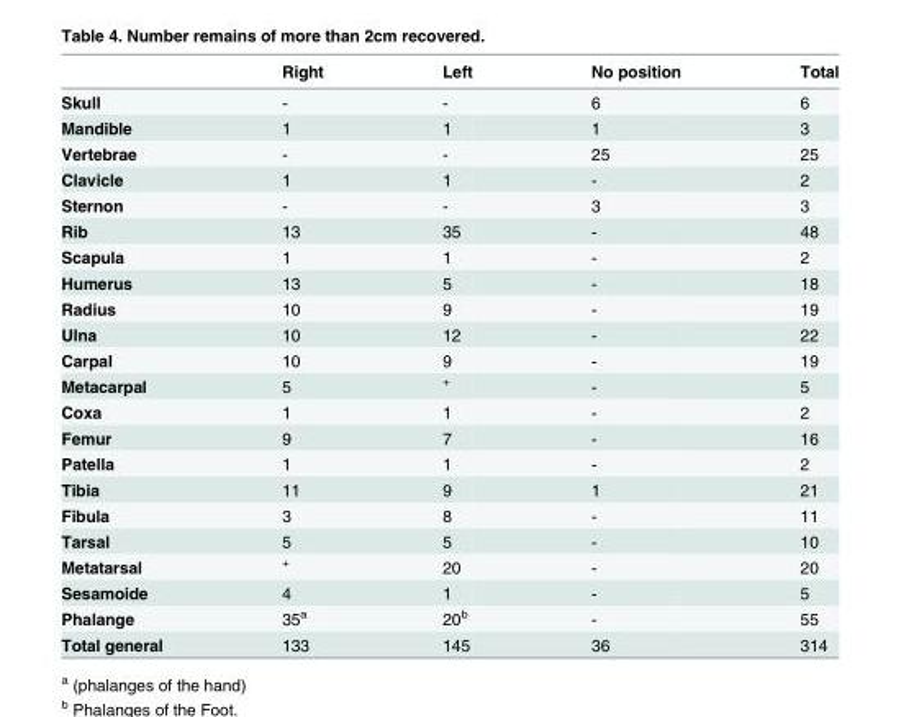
<table><thead><tr><td></td><td>Right</td><td>Left</td><td>No position</td><td>Total</td></tr></thead><tbody><tr><td>Skull</td><td>-</td><td>-</td><td>6</td><td>6</td></tr><tr><td>Mandible</td><td>1</td><td>1</td><td>1</td><td>3</td></tr><tr><td>Vertebrae</td><td>-</td><td>-</td><td>25</td><td>25</td></tr><tr><td>Clavicle</td><td>1</td><td>1</td><td>-</td><td>2</td></tr><tr><td>Sternon</td><td>-</td><td>-</td><td>3</td><td>3</td></tr><tr><td>Rib</td><td>13</td><td>35</td><td>-</td><td>48</td></tr><tr><td>Scapula</td><td>1</td><td>1</td><td>-</td><td>2</td></tr><tr><td>Humerus</td><td>13</td><td>5</td><td>-</td><td>18</td></tr><tr><td>Radius</td><td>10</td><td>9</td><td>-</td><td>19</td></tr><tr><td>Ulna</td><td>10</td><td>12</td><td>-</td><td>22</td></tr><tr><td>Carpal</td><td>10</td><td>9</td><td>-</td><td>19</td></tr><tr><td>Metacarpal</td><td>5</td><td><sup>+</sup></td><td>-</td><td>5</td></tr><tr><td>Coxa</td><td>1</td><td>1</td><td>-</td><td>2</td></tr><tr><td>Femur</td><td>9</td><td>7</td><td>-</td><td>16</td></tr><tr><td>Patella</td><td>1</td><td>1</td><td>-</td><td>2</td></tr><tr><td>Tibia</td><td>11</td><td>9</td><td>1</td><td>21</td></tr><tr><td>Fibula</td><td>3</td><td>8</td><td>-</td><td>11</td></tr><tr><td>Tarsal</td><td>5</td><td>5</td><td>-</td><td>10</td></tr><tr><td>Metatarsal</td><td><sup>+</sup></td><td>20</td><td>-</td><td>20</td></tr><tr><td>Sesamoide</td><td>4</td><td>1</td><td>-</td><td>5</td></tr><tr><td>Phalange</td><td>35<sup>a</sup></td><td>20<sup>b</sup></td><td>-</td><td>55</td></tr><tr><td>Total general</td><td>133</td><td>145</td><td>36</td><td>314</td></tr></tbody></table>